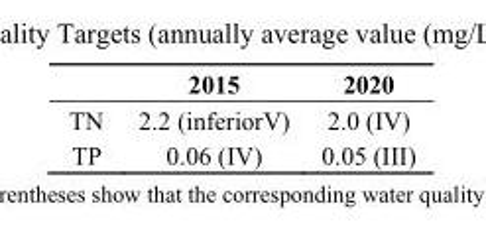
<table><thead><tr><td></td><td>2015</td><td>2020</td></tr></thead><tbody><tr><td>TN</td><td>2.2 (inferiorV)</td><td>2.0 (IV)</td></tr><tr><td>TP</td><td>0.06 (IV)</td><td>0.05 (III)</td></tr></tbody></table>